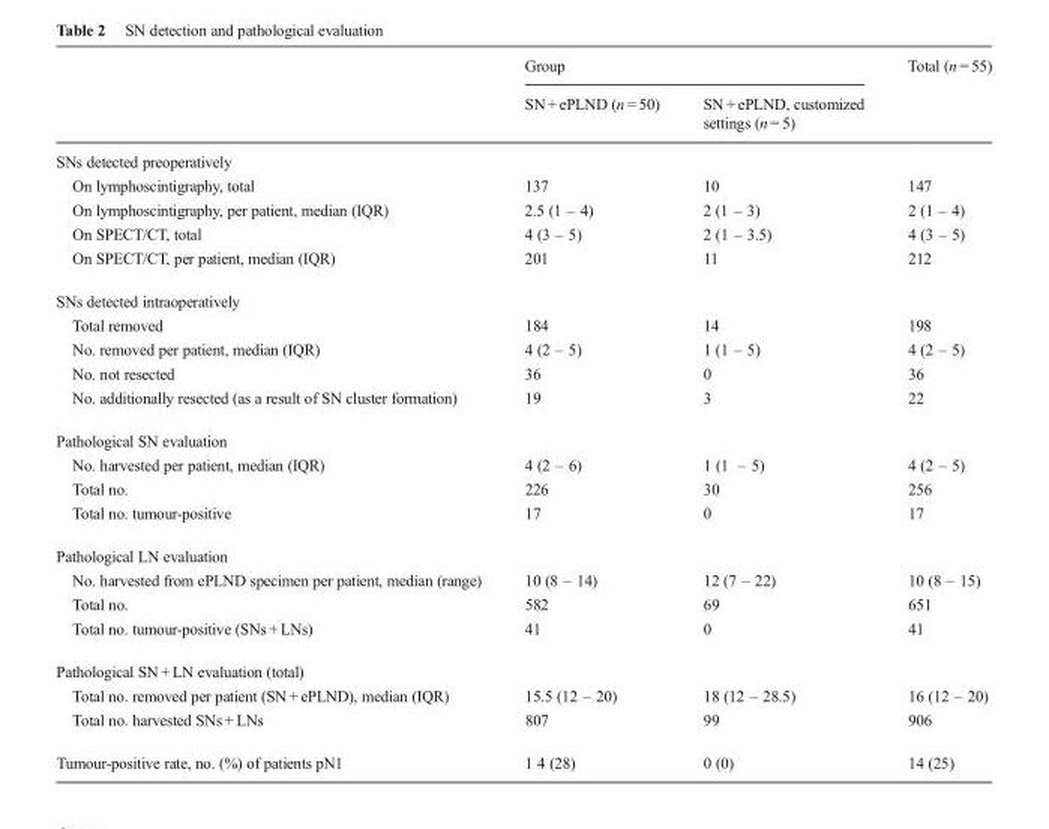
<table><thead><tr><td rowspan="2"></td><td colspan="2">Group</td><td rowspan="2">Total (n = 55)</td></tr><tr><td>SN + ePLND (n = 50)</td><td>SN + ePLND, customized settings (n = 5)</td></tr></thead><tbody><tr><td colspan="4">SNs detected preoperatively</td></tr><tr><td>On lymphoscintigraphy, total</td><td>137</td><td>10</td><td>147</td></tr><tr><td>On lymphoscintigraphy, per patient, median (IQR)</td><td>2.5 (1 – 4)</td><td>2 (1 – 3)</td><td>2 (1 – 4)</td></tr><tr><td>On SPECT/CT, total</td><td>4 (3 – 5)</td><td>2 (1 – 3.5)</td><td>4 (3 – 5)</td></tr><tr><td>On SPECT/CT, per patient, median (IQR)</td><td>201</td><td>11</td><td>212</td></tr><tr><td colspan="4">SNs detected intraoperatively</td></tr><tr><td>Total removed</td><td>184</td><td>14</td><td>198</td></tr><tr><td>No. removed per patient, median (IQR)</td><td>4 (2 – 5)</td><td>1 (1 – 5)</td><td>4 (2 – 5)</td></tr><tr><td>No. not resected</td><td>36</td><td>0</td><td>36</td></tr><tr><td>No. additionally resected (as a result of SN cluster formation)</td><td>19</td><td>3</td><td>22</td></tr><tr><td colspan="4">Pathological SN evaluation</td></tr><tr><td>No. harvested per patient, median (IQR)</td><td>4 (2 – 6)</td><td>1 (1 – 5)</td><td>4 (2 – 5)</td></tr><tr><td>Total no.</td><td>226</td><td>30</td><td>256</td></tr><tr><td>Total no. tumour-positive</td><td>17</td><td>0</td><td>17</td></tr><tr><td colspan="4">Pathological LN evaluation</td></tr><tr><td>No. harvested from ePLND specimen per patient, median (range)</td><td>10 (8 – 14)</td><td>12 (7 – 22)</td><td>10 (8 – 15)</td></tr><tr><td>Total no.</td><td>582</td><td>69</td><td>651</td></tr><tr><td>Total no. tumour-positive (SNs + LNs)</td><td>41</td><td>0</td><td>41</td></tr><tr><td colspan="4">Pathological SN + LN evaluation (total)</td></tr><tr><td>Total no. removed per patient (SN + ePLND), median (IQR)</td><td>15.5 (12 – 20)</td><td>18 (12 – 28.5)</td><td>16 (12 – 20)</td></tr><tr><td>Total no. harvested SNs + LNs</td><td>807</td><td>99</td><td>906</td></tr><tr><td>Tumour-positive rate, no. (%) of patients pN1</td><td>1 4 (28)</td><td>0 (0)</td><td>14 (25)</td></tr></tbody></table>